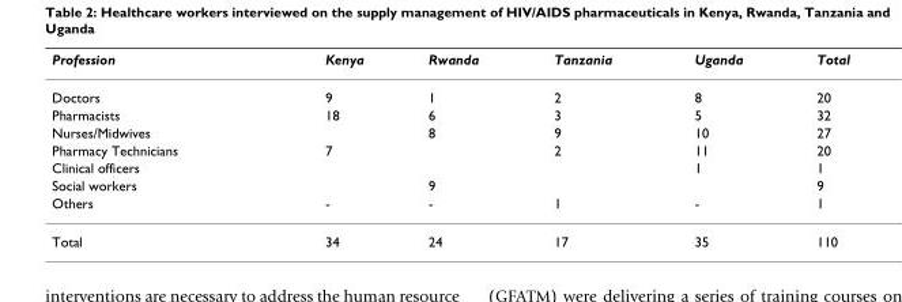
<table><thead><tr><td>Profession</td><td>Kenya</td><td>Rwanda</td><td>Tanzania</td><td>Uganda</td><td>Total</td></tr></thead><tbody><tr><td>Doctors</td><td>9</td><td>1</td><td>2</td><td>8</td><td>20</td></tr><tr><td>Pharmacists</td><td>18</td><td>6</td><td>3</td><td>5</td><td>32</td></tr><tr><td>Nurses/Midwives</td><td></td><td>8</td><td>9</td><td>10</td><td>27</td></tr><tr><td>Pharmacy Technicians</td><td>7</td><td></td><td>2</td><td>11</td><td>20</td></tr><tr><td>Clinical officers</td><td></td><td></td><td></td><td>1</td><td>1</td></tr><tr><td>Social workers</td><td></td><td>9</td><td></td><td></td><td>9</td></tr><tr><td>Others</td><td>-</td><td>-</td><td>1</td><td>-</td><td>1</td></tr><tr><td>Total</td><td>34</td><td>24</td><td>17</td><td>35</td><td>110</td></tr></tbody></table>